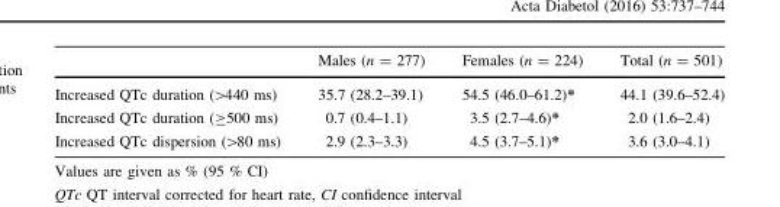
<table><thead><tr><td></td><td>Males (n = 277)</td><td>Females (n = 224)</td><td>Total (n = 501)</td></tr></thead><tbody><tr><td>Increased QTc duration (&gt;440 ms)</td><td>35.7 (28.2–39.1)</td><td>54.5 (46.0–61.2)*</td><td>44.1 (39.6–52.4)</td></tr><tr><td>Increased QTc duration (≥500 ms)</td><td>0.7 (0.4–1.1)</td><td>3.5 (2.7–4.6)*</td><td>2.0 (1.6–2.4)</td></tr><tr><td>Increased QTc dispersion (&gt;80 ms)</td><td>2.9 (2.3–3.3)</td><td>4.5 (3.7–5.1)*</td><td>3.6 (3.0–4.1)</td></tr></tbody></table>